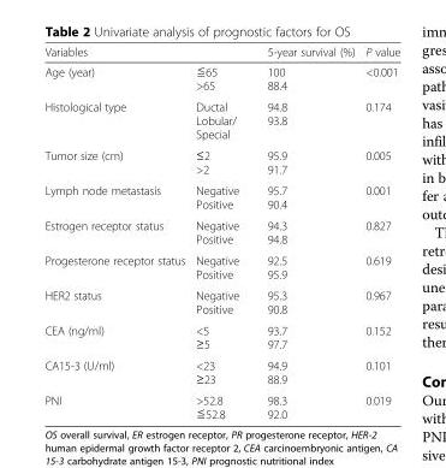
<table><thead><tr><td>Variables</td><td></td><td>5-year survival (%)</td><td>P value</td></tr></thead><tbody><tr><td>Age (year)</td><td>≦65 &gt;65</td><td>100 88.4</td><td>&lt;0.001</td></tr><tr><td>Histological type</td><td>Ductal Lobular/ Special</td><td>94.8 93.8</td><td>0.174</td></tr><tr><td>Tumor size (cm)</td><td>≤2 &gt;2</td><td>95.9 91.7</td><td>0.005</td></tr><tr><td>Lymph node metastasis</td><td>Negative Positive</td><td>95.7 90.4</td><td>0.001</td></tr><tr><td>Estrogen receptor status</td><td>Negative Positive</td><td>94.3 94.8</td><td>0.827</td></tr><tr><td>Progesterone receptor status</td><td>Negative Positive</td><td>92.5 95.9</td><td>0.619</td></tr><tr><td>HER2 status</td><td>Negative Positive</td><td>95.3 90.8</td><td>0.967</td></tr><tr><td>CEA (ng/ml)</td><td>&lt;5 ≥5</td><td>93.7 97.7</td><td>0.152</td></tr><tr><td>CA15-3 (U/ml)</td><td>&lt;23 ≥23</td><td>94.9 88.9</td><td>0.101</td></tr><tr><td>PNI</td><td>&gt;52.8 ≦52.8</td><td>98.3 92.0</td><td>0.019</td></tr></tbody></table>